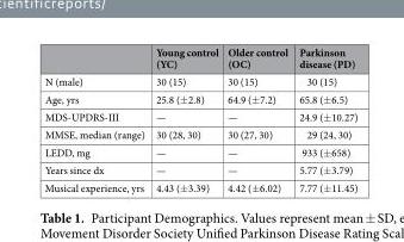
<table><thead><tr><td></td><td>Young control (YC)</td><td>Older control (OC)</td><td>Parkinson disease (PD)</td></tr></thead><tbody><tr><td>N (male)</td><td>30 (15)</td><td>30 (15)</td><td>30 (15)</td></tr><tr><td>Age, yrs</td><td>25.8 (±2.8)</td><td>64.9 (±7.2)</td><td>65.8 (±6.5)</td></tr><tr><td>MDS-UPDRS-III</td><td>—</td><td>—</td><td>24.9 (±10.27)</td></tr><tr><td>MMSE, median (range)</td><td>30 (28, 30)</td><td>30 (27, 30)</td><td>29 (24, 30)</td></tr><tr><td>LEDD, mg</td><td>—</td><td>—</td><td>933 (±658)</td></tr><tr><td>Years since dx</td><td>—</td><td>—</td><td>5.77 (±3.79)</td></tr><tr><td>Musical experience, yrs</td><td>4.43 (±3.39)</td><td>4.42 (±6.02)</td><td>7.77 (±11.45)</td></tr></tbody></table>